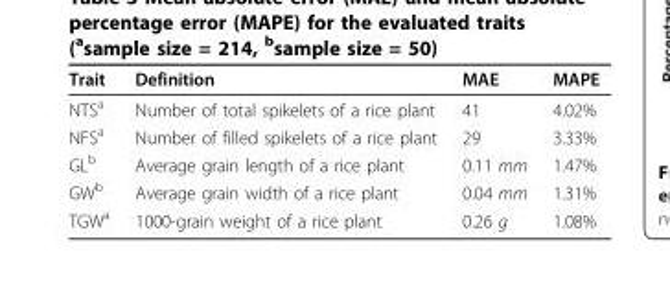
<table><thead><tr><td>Trait</td><td>Definition</td><td>MAE</td><td>MAPE</td></tr></thead><tbody><tr><td>NTS<sup>a</sup></td><td>Number of total spikelets of a rice plant</td><td>41</td><td>4.02%</td></tr><tr><td>NFS<sup>a</sup></td><td>Number of filled spikelets of a rice plant</td><td>29</td><td>3.33%</td></tr><tr><td>GL<sup>b</sup></td><td>Average grain length of a rice plant</td><td>0.11 mm</td><td>1.47%</td></tr><tr><td>GW<sup>b</sup></td><td>Average grain width of a rice plant</td><td>0.04 mm</td><td>1.31%</td></tr><tr><td>TGW<sup>a</sup></td><td>1000-grain weight of a rice plant</td><td>0.26 g</td><td>1.08%</td></tr></tbody></table>